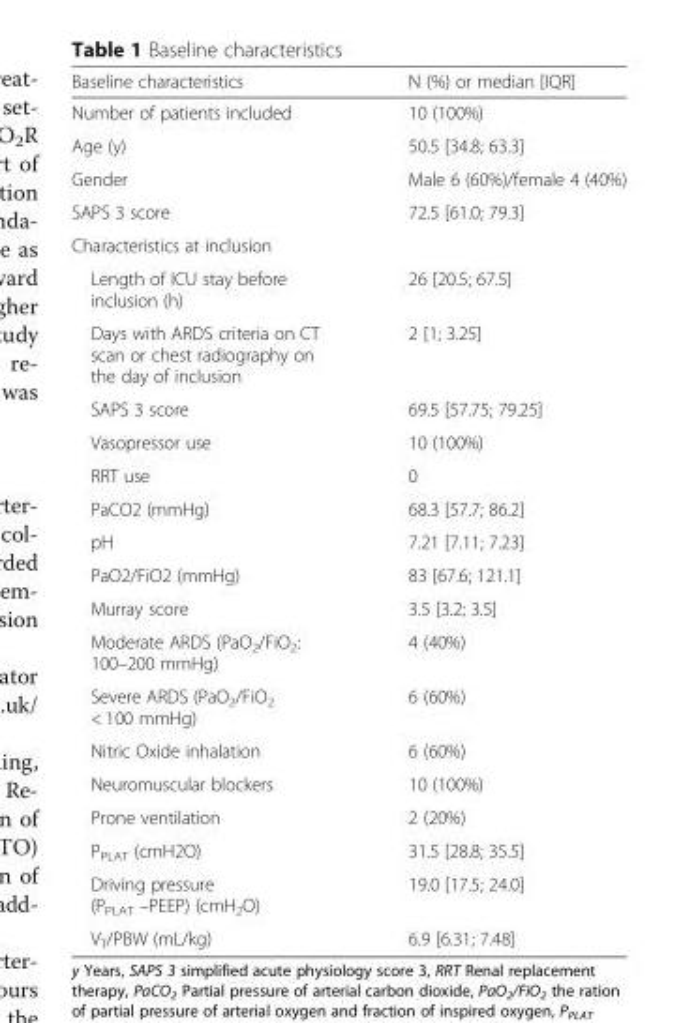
<table><thead><tr><td>Baseline characteristics</td><td>N (%) or median [IQR]</td></tr></thead><tbody><tr><td>Number of patients included</td><td>10 (100%)</td></tr><tr><td>Age (y)</td><td>50.5 [34.8; 63.3]</td></tr><tr><td>Gender</td><td>Male 6 (60%)/female 4 (40%)</td></tr><tr><td>SAPS 3 score</td><td>72.5 [61.0; 79.3]</td></tr><tr><td colspan="2">Characteristics at inclusion</td></tr><tr><td>Length of ICU stay before inclusion (h)</td><td>26 [20.5; 67.5]</td></tr><tr><td>Days with ARDS criteria on CT scan or chest radiography on the day of inclusion</td><td>2 [1; 3.25]</td></tr><tr><td>SAPS 3 score</td><td>69.5 [57.75; 79.25]</td></tr><tr><td>Vasopressor use</td><td>10 (100%)</td></tr><tr><td>RRT use</td><td>0</td></tr><tr><td>PaCO2 (mmHg)</td><td>68.3 [57.7; 86.2]</td></tr><tr><td>pH</td><td>7.21 [7.11; 7.23]</td></tr><tr><td>PaO2/FiO2 (mmHg)</td><td>83 [67.6; 121.1]</td></tr><tr><td>Murray score</td><td>3.5 [3.2; 3.5]</td></tr><tr><td>Moderate ARDS (PaO<sub>2</sub>/FiO<sub>2</sub>: 100–200 mmHg)</td><td>4 (40%)</td></tr><tr><td>Severe ARDS (PaO<sub>2</sub>/FiO<sub>2</sub> &lt; 100 mmHg)</td><td>6 (60%)</td></tr><tr><td>Nitric Oxide inhalation</td><td>6 (60%)</td></tr><tr><td>Neuromuscular blockers</td><td>10 (100%)</td></tr><tr><td>Prone ventilation</td><td>2 (20%)</td></tr><tr><td>P<sub>PLAT</sub> (cmH2O)</td><td>31.5 [28.8; 35.5]</td></tr><tr><td>Driving pressure (P<sub>PLAT</sub> –PEEP) (cmH<sub>2</sub>O)</td><td>19.0 [17.5; 24.0]</td></tr><tr><td>V<sub>T</sub>/PBW (mL/kg)</td><td>6.9 [6.31; 7.48]</td></tr></tbody></table>